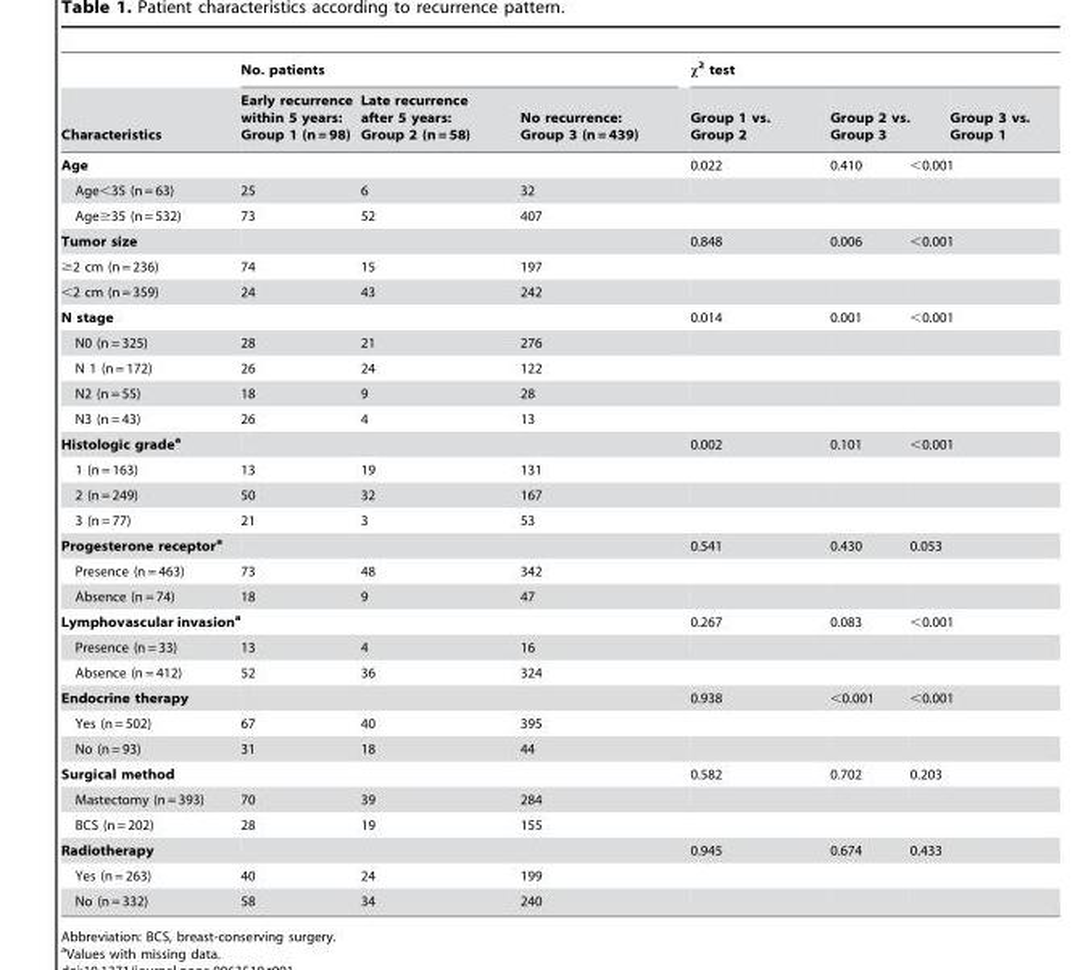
<table><thead><tr><td rowspan="2">Characteristics</td><td colspan="3">No. patients</td><td colspan="4">χ<sup>2</sup> test</td></tr><tr><td>Early recurrence within 5 years: Group 1 (n = 98)</td><td>Late recurrence after 5 years: Group 2 (n = 58)</td><td>No recurrence: Group 3 (n = 439)</td><td>Group 1 vs. Group 2</td><td colspan="2">Group 2 vs. Group 3</td><td>Group 3 vs. Group 1</td></tr></thead><tbody><tr><td>Age</td><td></td><td></td><td></td><td>0.022</td><td>0.410</td><td colspan="2">&lt;0.001</td></tr><tr><td>Age&lt;35 (n = 63)</td><td>25</td><td>6</td><td>32</td><td></td><td></td><td colspan="2"></td></tr><tr><td>Age≥35 (n = 532)</td><td>73</td><td>52</td><td>407</td><td></td><td></td><td colspan="2"></td></tr><tr><td>Tumor size</td><td></td><td></td><td></td><td>0.848</td><td>0.006</td><td colspan="2">&lt;0.001</td></tr><tr><td>≥2 cm (n = 236)</td><td>74</td><td>15</td><td>197</td><td></td><td></td><td colspan="2"></td></tr><tr><td>&lt;2 cm (n = 359)</td><td>24</td><td>43</td><td>242</td><td></td><td></td><td colspan="2"></td></tr><tr><td>N stage</td><td></td><td></td><td></td><td>0.014</td><td>0.001</td><td colspan="2">&lt;0.001</td></tr><tr><td>N0 (n = 325)</td><td>28</td><td>21</td><td>276</td><td></td><td></td><td colspan="2"></td></tr><tr><td>N 1 (n = 172)</td><td>26</td><td>24</td><td>122</td><td></td><td></td><td colspan="2"></td></tr><tr><td>N2 (n = 55)</td><td>18</td><td>9</td><td>28</td><td></td><td></td><td colspan="2"></td></tr><tr><td>N3 (n = 43)</td><td>26</td><td>4</td><td>13</td><td></td><td></td><td colspan="2"></td></tr><tr><td>Histologic gradea</td><td></td><td></td><td></td><td>0.002</td><td>0.101</td><td colspan="2">&lt;0.001</td></tr><tr><td>1 (n = 163)</td><td>13</td><td>19</td><td>131</td><td></td><td></td><td colspan="2"></td></tr><tr><td>2 (n = 249)</td><td>50</td><td>32</td><td>167</td><td></td><td></td><td colspan="2"></td></tr><tr><td>3 (n = 77)</td><td>21</td><td>3</td><td>53</td><td></td><td></td><td colspan="2"></td></tr><tr><td>Progesterone receptora</td><td></td><td></td><td></td><td>0.541</td><td>0.430</td><td colspan="2">0.053</td></tr><tr><td>Presence (n = 463)</td><td>73</td><td>48</td><td>342</td><td></td><td></td><td colspan="2"></td></tr><tr><td>Absence (n = 74)</td><td>18</td><td>9</td><td>47</td><td></td><td></td><td colspan="2"></td></tr><tr><td>Lymphovascular invasiona</td><td></td><td></td><td></td><td>0.267</td><td>0.083</td><td colspan="2">&lt;0.001</td></tr><tr><td>Presence (n = 33)</td><td>13</td><td>4</td><td>16</td><td></td><td></td><td colspan="2"></td></tr><tr><td>Absence (n = 412)</td><td>52</td><td>36</td><td>324</td><td></td><td></td><td colspan="2"></td></tr><tr><td>Endocrine therapy</td><td></td><td></td><td></td><td>0.938</td><td>&lt;0.001</td><td colspan="2">&lt;0.001</td></tr><tr><td>Yes (n = 502)</td><td>67</td><td>40</td><td>395</td><td></td><td></td><td colspan="2"></td></tr><tr><td>No (n = 93)</td><td>31</td><td>18</td><td>44</td><td></td><td></td><td colspan="2"></td></tr><tr><td>Surgical method</td><td></td><td></td><td></td><td>0.582</td><td>0.702</td><td colspan="2">0.203</td></tr><tr><td>Mastectomy (n = 393)</td><td>70</td><td>39</td><td>284</td><td></td><td></td><td colspan="2"></td></tr><tr><td>BCS (n = 202)</td><td>28</td><td>19</td><td>155</td><td></td><td></td><td colspan="2"></td></tr><tr><td>Radiotherapy</td><td></td><td></td><td></td><td>0.945</td><td>0.674</td><td colspan="2">0.433</td></tr><tr><td>Yes (n = 263)</td><td>40</td><td>24</td><td>199</td><td></td><td></td><td colspan="2"></td></tr><tr><td>No (n = 332)</td><td>58</td><td>34</td><td>240</td><td></td><td></td><td colspan="2"></td></tr></tbody></table>